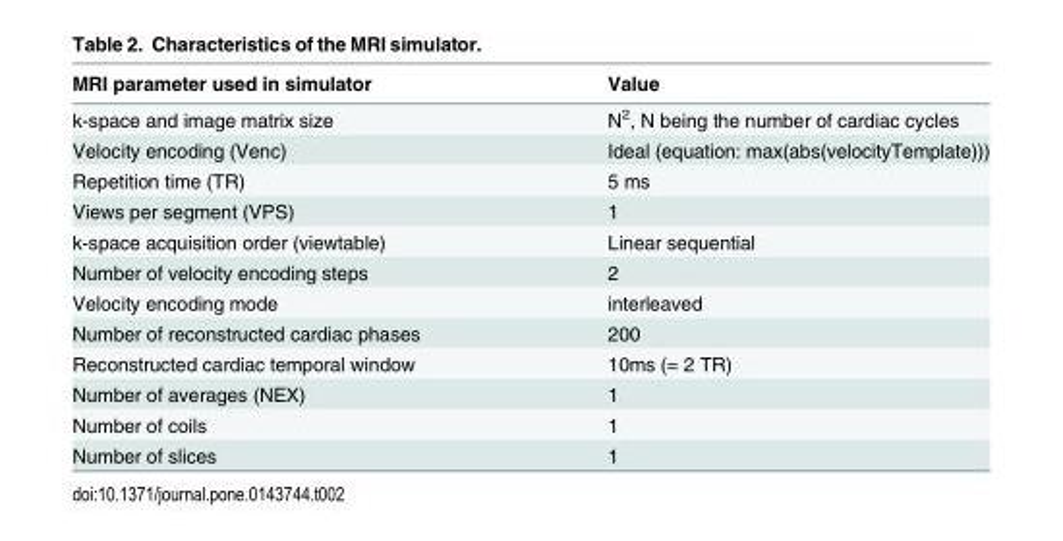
<table><thead><tr><td>MRI parameter used in simulator</td><td>Value</td></tr></thead><tbody><tr><td>k-space and image matrix size</td><td>N<sup>2</sup>, N being the number of cardiac cycles</td></tr><tr><td>Velocity encoding (Venc)</td><td>Ideal (equation: max(abs(velocityTemplate)))</td></tr><tr><td>Repetition time (TR)</td><td>5 ms</td></tr><tr><td>Views per segment (VPS)</td><td>1</td></tr><tr><td>k-space acquisition order (viewtable)</td><td>Linear sequential</td></tr><tr><td>Number of velocity encoding steps</td><td>2</td></tr><tr><td>Velocity encoding mode</td><td>interleaved</td></tr><tr><td>Number of reconstructed cardiac phases</td><td>200</td></tr><tr><td>Reconstructed cardiac temporal window</td><td>10ms (= 2 TR)</td></tr><tr><td>Number of averages (NEX)</td><td>1</td></tr><tr><td>Number of coils</td><td>1</td></tr><tr><td>Number of slices</td><td>1</td></tr></tbody></table>